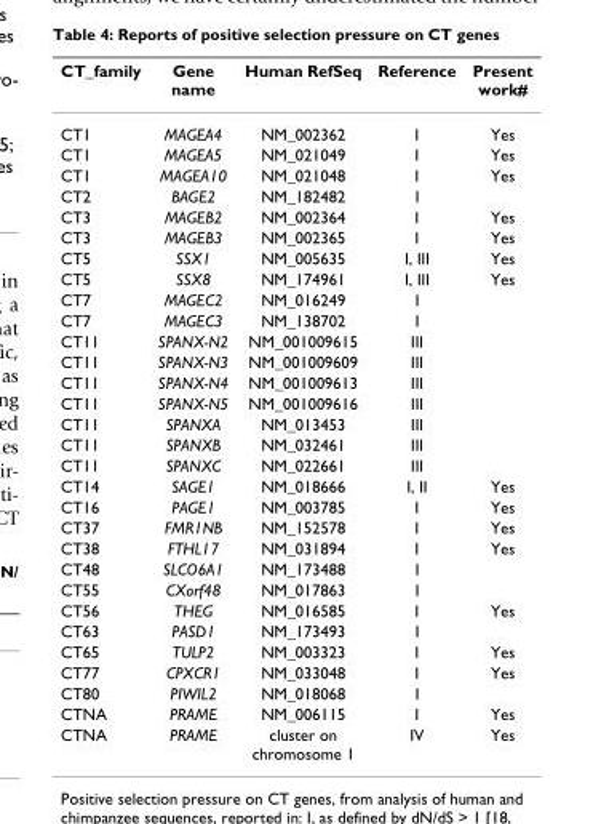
<table><thead><tr><td>CT_family</td><td>Gene name</td><td>Human RefSeq</td><td>Reference</td><td>Present work#</td></tr></thead><tbody><tr><td>CT1</td><td>MAGEA4</td><td>NM_002362</td><td>I</td><td>Yes</td></tr><tr><td>CT1</td><td>MAGEA5</td><td>NM_021049</td><td>I</td><td>Yes</td></tr><tr><td>CT1</td><td>MAGEA10</td><td>NM_021048</td><td>I</td><td>Yes</td></tr><tr><td>CT2</td><td>BAGE2</td><td>NM_182482</td><td>I</td><td></td></tr><tr><td>CT3</td><td>MAGEB2</td><td>NM_002364</td><td>I</td><td>Yes</td></tr><tr><td>CT3</td><td>MAGEB3</td><td>NM_002365</td><td>I</td><td>Yes</td></tr><tr><td>CT5</td><td>SSX1</td><td>NM_005635</td><td>I, III</td><td>Yes</td></tr><tr><td>CT5</td><td>SSX8</td><td>NM_174961</td><td>I, III</td><td>Yes</td></tr><tr><td>CT7</td><td>MAGEC2</td><td>NM_016249</td><td>I</td><td></td></tr><tr><td>CT7</td><td>MAGEC3</td><td>NM_138702</td><td>I</td><td></td></tr><tr><td>CT11</td><td>SPANX-N2</td><td>NM_001009615</td><td>III</td><td></td></tr><tr><td>CT11</td><td>SPANX-N3</td><td>NM_001009609</td><td>III</td><td></td></tr><tr><td>CT11</td><td>SPANX-N4</td><td>NM_001009613</td><td>III</td><td></td></tr><tr><td>CT11</td><td>SPANX-N5</td><td>NM_001009616</td><td>III</td><td></td></tr><tr><td>CT11</td><td>SPANXA</td><td>NM_013453</td><td>III</td><td></td></tr><tr><td>CT11</td><td>SPANXB</td><td>NM_032461</td><td>III</td><td></td></tr><tr><td>CT11</td><td>SPANXC</td><td>NM_022661</td><td>III</td><td></td></tr><tr><td>CT14</td><td>SAGE1</td><td>NM_018666</td><td>I, II</td><td>Yes</td></tr><tr><td>CT16</td><td>PAGE1</td><td>NM_003785</td><td>I</td><td>Yes</td></tr><tr><td>CT37</td><td>FMR1NB</td><td>NM_152578</td><td>I</td><td>Yes</td></tr><tr><td>CT38</td><td>FTHL17</td><td>NM_031894</td><td>I</td><td>Yes</td></tr><tr><td>CT48</td><td>SLCO6A1</td><td>NM_173488</td><td>I</td><td></td></tr><tr><td>CT55</td><td>CXorf48</td><td>NM_017863</td><td>I</td><td></td></tr><tr><td>CT56</td><td>THEG</td><td>NM_016585</td><td>I</td><td>Yes</td></tr><tr><td>CT63</td><td>PASD1</td><td>NM_173493</td><td>I</td><td></td></tr><tr><td>CT65</td><td>TULP2</td><td>NM_003323</td><td>I</td><td>Yes</td></tr><tr><td>CT77</td><td>CPXCR1</td><td>NM_033048</td><td>I</td><td>Yes</td></tr><tr><td>CT80</td><td>PIWIL2</td><td>NM_018068</td><td>I</td><td></td></tr><tr><td>CTNA</td><td>PRAME</td><td>NM_006115</td><td>I</td><td>Yes</td></tr><tr><td>CTNA</td><td>PRAME</td><td>cluster on chromosome 1</td><td>IV</td><td>Yes</td></tr></tbody></table>